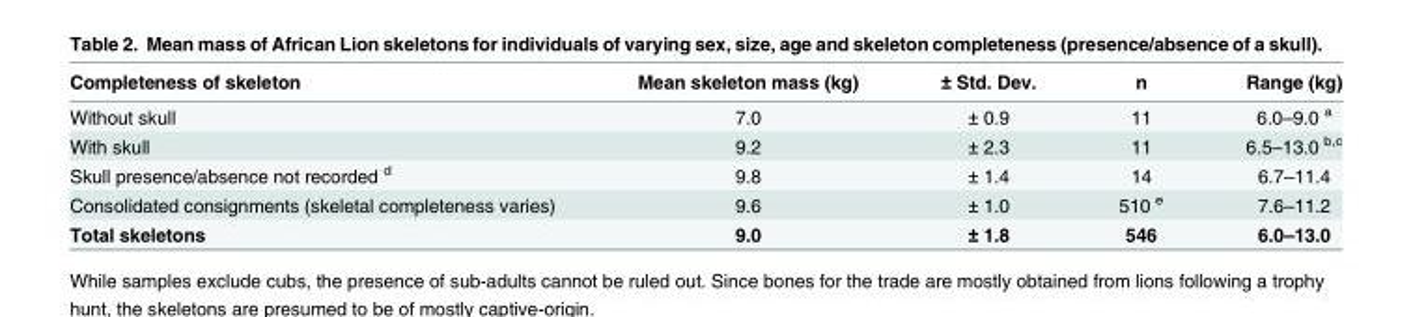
<table><thead><tr><td>Completeness of skeleton</td><td>Mean skeleton mass (kg)</td><td>± Std. Dev.</td><td>n</td><td>Range (kg)</td></tr></thead><tbody><tr><td>Without skull</td><td>7.0</td><td>± 0.9</td><td>11</td><td>6.0–9.0 <sup>a</sup></td></tr><tr><td>With skull</td><td>9.2</td><td>± 2.3</td><td>11</td><td>6.5–13.0 <sup>b,c</sup></td></tr><tr><td>Skull presence/absence not recorded <sup>d</sup></td><td>9.8</td><td>± 1.4</td><td>14</td><td>6.7–11.4</td></tr><tr><td>Consolidated consignments (skeletal completeness varies)</td><td>9.6</td><td>± 1.0</td><td>510 <sup>e</sup></td><td>7.6–11.2</td></tr><tr><td>Total skeletons</td><td>9.0</td><td>± 1.8</td><td>546</td><td>6.0–13.0</td></tr></tbody></table>